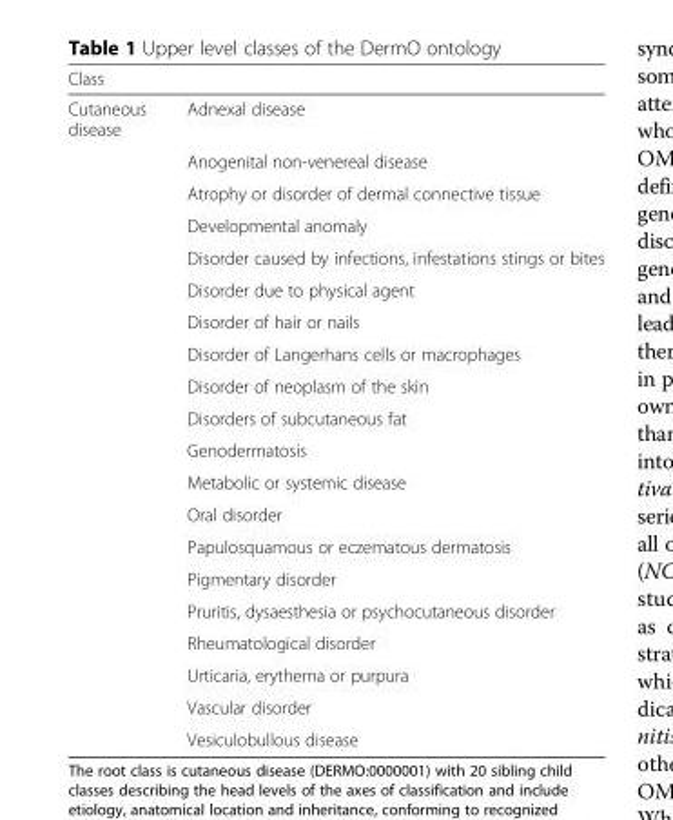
<table><thead><tr><td>Class</td><td></td></tr></thead><tbody><tr><td rowspan="20">Cutaneous disease</td><td>Adnexal disease</td></tr><tr><td>Anogenital non-venereal disease</td></tr><tr><td>Atrophy or disorder of dermal connective tissue</td></tr><tr><td>Developmental anomaly</td></tr><tr><td>Disorder caused by infections, infestations stings or bites</td></tr><tr><td>Disorder due to physical agent</td></tr><tr><td>Disorder of hair or nails</td></tr><tr><td>Disorder of Langerhans cells or macrophages</td></tr><tr><td>Disorder of neoplasm of the skin</td></tr><tr><td>Disorders of subcutaneous fat</td></tr><tr><td>Genodermatosis</td></tr><tr><td>Metabolic or systemic disease</td></tr><tr><td>Oral disorder</td></tr><tr><td>Papulosquamous or eczematous dermatosis</td></tr><tr><td>Pigmentary disorder</td></tr><tr><td>Pruritis, dysaesthesia or psychocutaneous disorder</td></tr><tr><td>Rheumatological disorder</td></tr><tr><td>Urticaria, erythema or purpura</td></tr><tr><td>Vascular disorder</td></tr><tr><td>Vesiculobullous disease</td></tr></tbody></table>